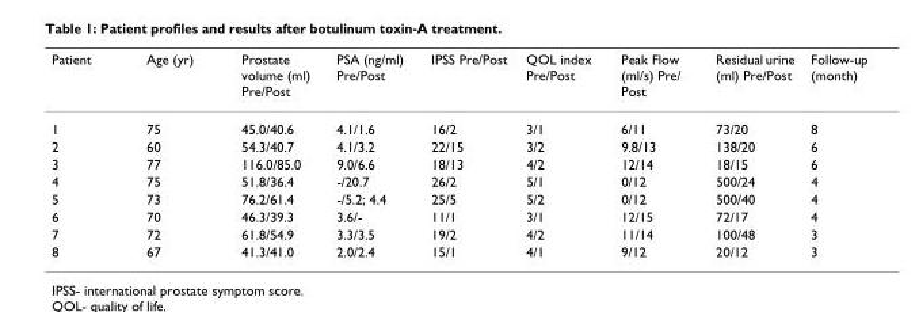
<table><thead><tr><td>Patient</td><td>Age (yr)</td><td>Prostate volume (ml) Pre/Post</td><td>PSA (ng/ml) Pre/Post</td><td>IPSS Pre/Post</td><td>QOL index Pre/Post</td><td>Peak Flow (ml/s) Pre/ Post</td><td>Residual urine (ml) Pre/Post</td><td>Follow-up (month)</td></tr></thead><tbody><tr><td>1</td><td>75</td><td>45.0/40.6</td><td>4.1/1.6</td><td>16/2</td><td>3/1</td><td>6/11</td><td>73/20</td><td>8</td></tr><tr><td>2</td><td>60</td><td>54.3/40.7</td><td>4.1/3.2</td><td>22/15</td><td>3/2</td><td>9.8/13</td><td>138/20</td><td>6</td></tr><tr><td>3</td><td>77</td><td>116.0/85.0</td><td>9.0/6.6</td><td>18/13</td><td>4/2</td><td>12/14</td><td>18/15</td><td>6</td></tr><tr><td>4</td><td>75</td><td>51.8/36.4</td><td>-/20.7</td><td>26/2</td><td>5/1</td><td>0/12</td><td>500/24</td><td>4</td></tr><tr><td>5</td><td>73</td><td>76.2/61.4</td><td>-/5.2; 4.4</td><td>25/5</td><td>5/2</td><td>0/12</td><td>500/40</td><td>4</td></tr><tr><td>6</td><td>70</td><td>46.3/39.3</td><td>3.6/-</td><td>11/1</td><td>3/1</td><td>12/15</td><td>72/17</td><td>4</td></tr><tr><td>7</td><td>72</td><td>61.8/54.9</td><td>3.3/3.5</td><td>19/2</td><td>4/2</td><td>11/14</td><td>100/48</td><td>3</td></tr><tr><td>8</td><td>67</td><td>41.3/41.0</td><td>2.0/2.4</td><td>15/1</td><td>4/1</td><td>9/12</td><td>20/12</td><td>3</td></tr></tbody></table>